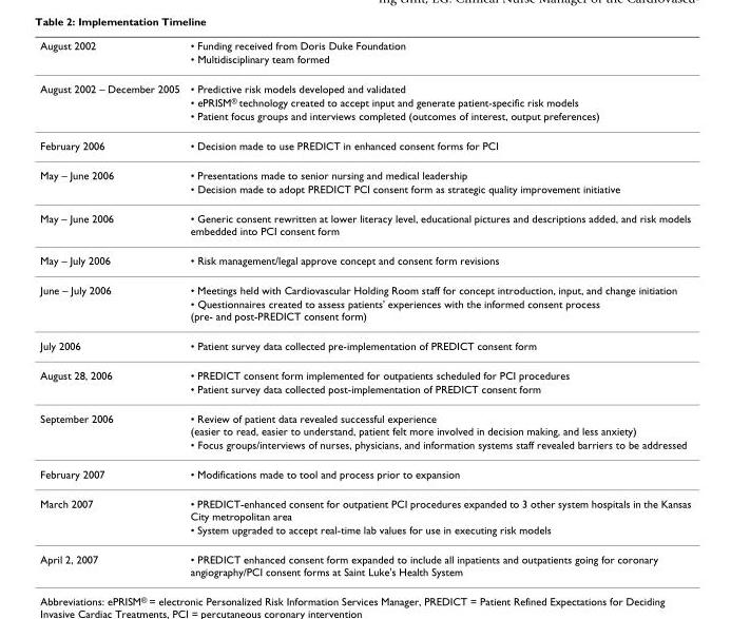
<table><thead><tr><td rowspan="2">August 2002</td><td rowspan="2">• Funding received from Doris Duke Foundation • Multidisciplinary team formed</td></tr><tr></tr></thead><tbody><tr><td rowspan="3">August 2002 – December 2005</td><td>• Predictive risk models developed and validated</td></tr><tr><td>• ePRISM<sup>®</sup> technology created to accept input and generate patient-specific risk models</td></tr><tr><td>• Patient focus groups and interviews completed (outcomes of interest, output preferences)</td></tr><tr><td>February 2006</td><td>• Decision made to use PREDICT in enhanced consent forms for PCI</td></tr><tr><td rowspan="2">May – June 2006</td><td>• Presentations made to senior nursing and medical leadership</td></tr><tr><td>• Decision made to adopt PREDICT PCI consent form as strategic quality improvement initiative</td></tr><tr><td>May – June 2006</td><td>• Generic consent rewritten at lower literacy level, educational pictures and descriptions added, and risk models embedded into PCI consent form</td></tr><tr><td>May – July 2006</td><td>• Risk management/legal approve concept and consent form revisions</td></tr><tr><td rowspan="2">June – July 2006</td><td>• Meetings held with Cardiovascular Holding Room staff for concept introduction, input, and change initiation</td></tr><tr><td>• Questionnaires created to assess patients&#x27; experiences with the informed consent process (pre- and post-PREDICT consent form)</td></tr><tr><td>July 2006</td><td>• Patient survey data collected pre-implementation of PREDICT consent form</td></tr><tr><td rowspan="2">August 28, 2006</td><td>• PREDICT consent form implemented for outpatients scheduled for PCI procedures</td></tr><tr><td>• Patient survey data collected post-implementation of PREDICT consent form</td></tr><tr><td rowspan="2">September 2006</td><td>• Review of patient data revealed successful experience (easier to read, easier to understand, patient felt more involved in decision making, and less anxiety)</td></tr><tr><td>• Focus groups/interviews of nurses, physicians, and information systems staff revealed barriers to be addressed</td></tr><tr><td>February 2007</td><td>• Modifications made to tool and process prior to expansion</td></tr><tr><td rowspan="2">March 2007</td><td>• PREDICT-enhanced consent for outpatient PCI procedures expanded to 3 other system hospitals in the Kansas City metropolitan area</td></tr><tr><td>• System upgraded to accept real-time lab values for use in executing risk models</td></tr><tr><td>April 2, 2007</td><td>• PREDICT enhanced consent form expanded to include all inpatients and outpatients going for coronary angiography/PCI consent forms at Saint Luke&#x27;s Health System</td></tr></tbody></table>